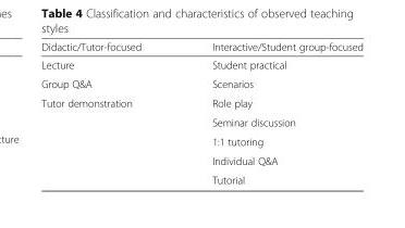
<table><thead><tr><td>Didactic/Tutor-focused</td><td>Interactive/Student group-focused</td></tr></thead><tbody><tr><td>Lecture</td><td>Student practical</td></tr><tr><td>Group Q&amp;A</td><td>Scenarios</td></tr><tr><td rowspan="5">Tutor demonstration</td><td>Role play</td></tr><tr><td>Seminar discussion</td></tr><tr><td>1:1 tutoring</td></tr><tr><td>Individual Q&amp;A</td></tr><tr><td>Tutorial</td></tr></tbody></table>